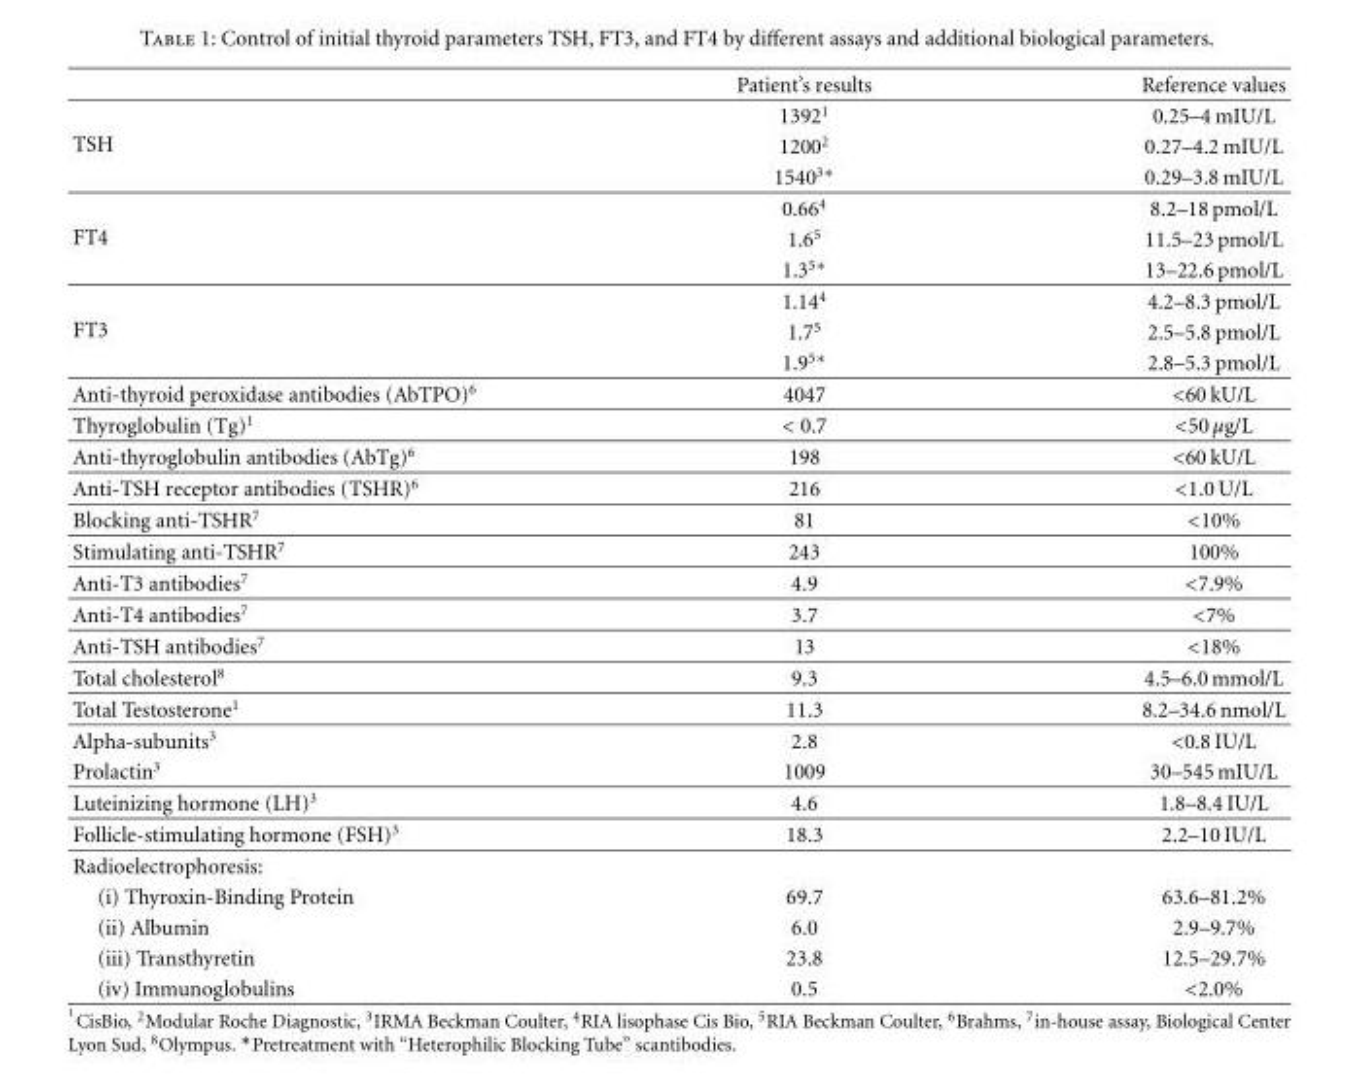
<table><thead><tr><td></td><td>Patient’s results</td><td>Reference values</td></tr></thead><tbody><tr><td rowspan="3">TSH</td><td>1392<sup>1</sup></td><td>0.25–4 mIU/L</td></tr><tr><td>1200<sup>2</sup></td><td>0.27–4.2 mIU/L</td></tr><tr><td>1540<sup>3∗</sup></td><td>0.29–3.8 mIU/L</td></tr><tr><td rowspan="3">FT4</td><td>0.66<sup>4</sup></td><td>8.2–18 pmol/L</td></tr><tr><td>1.6<sup>5</sup></td><td>11.5–23 pmol/L</td></tr><tr><td>1.3<sup>5∗</sup></td><td>13–22.6 pmol/L</td></tr><tr><td rowspan="3">FT3</td><td>1.14<sup>4</sup></td><td>4.2–8.3 pmol/L</td></tr><tr><td>1.7<sup>5</sup></td><td>2.5–5.8 pmol/L</td></tr><tr><td>1.9<sup>5∗</sup></td><td>2.8–5.3 pmol/L</td></tr><tr><td>Anti-thyroid peroxidase antibodies (AbTPO)<sup>6</sup></td><td>4047</td><td>&lt;60 kU/L</td></tr><tr><td>Thyroglobulin (Tg)<sup>1</sup></td><td>&lt; 0.7</td><td>&lt;50 μg/L</td></tr><tr><td>Anti-thyroglobulin antibodies (AbTg)<sup>6</sup></td><td>198</td><td>&lt;60 kU/L</td></tr><tr><td>Anti-TSH receptor antibodies (TSHR)<sup>6</sup></td><td>216</td><td>&lt;1.0 U/L</td></tr><tr><td>Blocking anti-TSHR<sup>7</sup></td><td>81</td><td>&lt;10%</td></tr><tr><td>Stimulating anti-TSHR<sup>7</sup></td><td>243</td><td>100%</td></tr><tr><td>Anti-T3 antibodies<sup>7</sup></td><td>4.9</td><td>&lt;7.9%</td></tr><tr><td>Anti-T4 antibodies<sup>7</sup></td><td>3.7</td><td>&lt;7%</td></tr><tr><td>Anti-TSH antibodies<sup>7</sup></td><td>13</td><td>&lt;18%</td></tr><tr><td>Total cholesterol<sup>8</sup></td><td>9.3</td><td>4.5–6.0 mmol/L</td></tr><tr><td>Total Testosterone<sup>1</sup></td><td>11.3</td><td>8.2–34.6 nmol/L</td></tr><tr><td>Alpha-subunits<sup>3</sup></td><td>2.8</td><td>&lt;0.8 IU/L</td></tr><tr><td>Prolactin<sup>3</sup></td><td>1009</td><td>30–545 mIU/L</td></tr><tr><td>Luteinizing hormone (LH)<sup>3</sup></td><td>4.6</td><td>1.8–8.4 IU/L</td></tr><tr><td>Follicle-stimulating hormone (FSH)<sup>3</sup></td><td>18.3</td><td>2.2–10 IU/L</td></tr><tr><td colspan="3">Radioelectrophoresis:</td></tr><tr><td>(i) Thyroxin-Binding Protein</td><td>69.7</td><td>63.6–81.2%</td></tr><tr><td>(ii) Albumin</td><td>6.0</td><td>2.9–9.7%</td></tr><tr><td>(iii) Transthyretin</td><td>23.8</td><td>12.5–29.7%</td></tr><tr><td>(iv) Immunoglobulins</td><td>0.5</td><td>&lt;2.0%</td></tr></tbody></table>